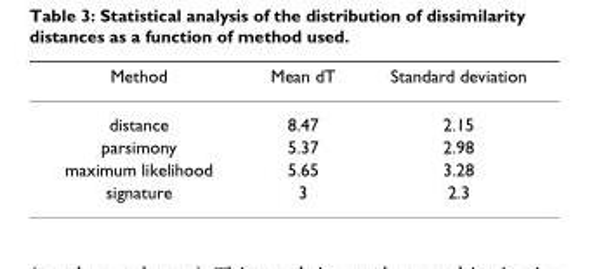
<table><thead><tr><td>Method</td><td>Mean dT</td><td>Standard deviation</td></tr></thead><tbody><tr><td>distance</td><td>8.47</td><td>2.15</td></tr><tr><td>parsimony</td><td>5.37</td><td>2.98</td></tr><tr><td>maximum likelihood</td><td>5.65</td><td>3.28</td></tr><tr><td>signature</td><td>3</td><td>2.3</td></tr></tbody></table>